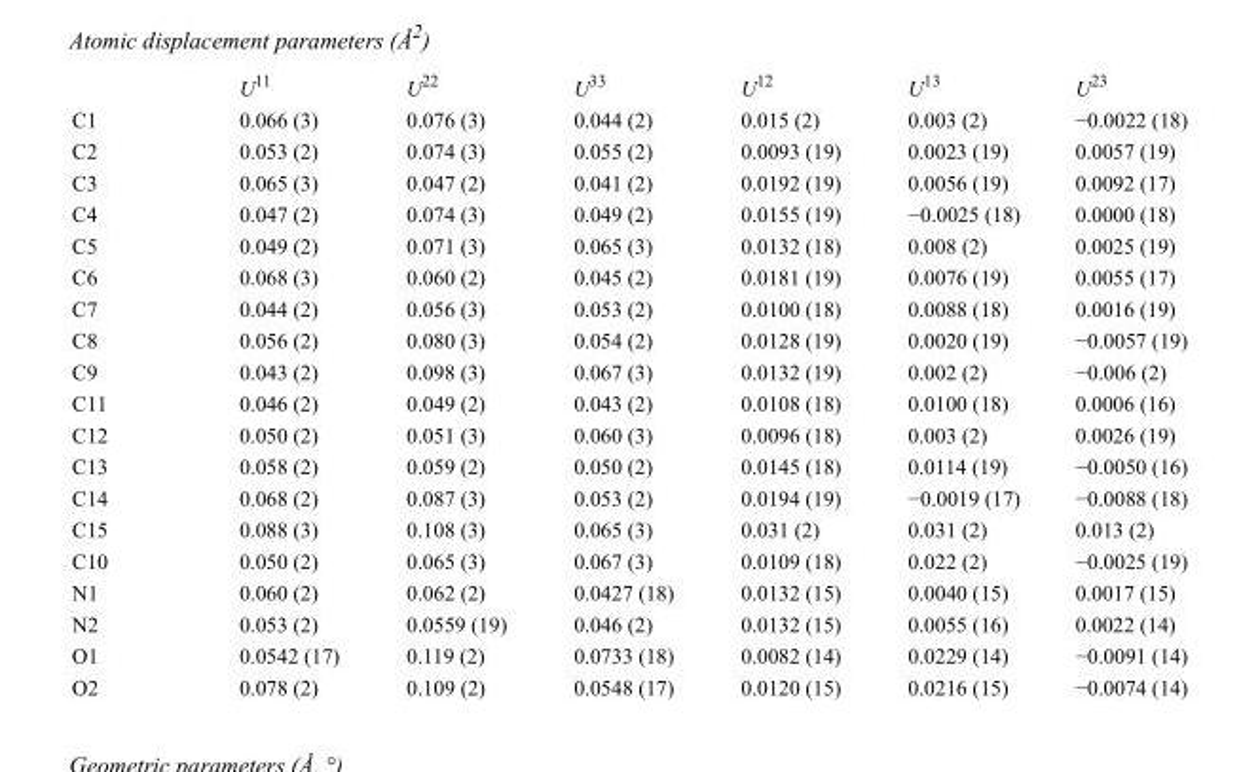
<table><thead><tr><td></td><td>U<sup>11</sup></td><td>U<sup>22</sup></td><td>U<sup>33</sup></td><td>U<sup>12</sup></td><td>U<sup>13</sup></td><td>U<sup>23</sup></td></tr></thead><tbody><tr><td>C1</td><td>0.066 (3)</td><td>0.076 (3)</td><td>0.044 (2)</td><td>0.015 (2)</td><td>0.003 (2)</td><td>−0.0022 (18)</td></tr><tr><td>C2</td><td>0.053 (2)</td><td>0.074 (3)</td><td>0.055 (2)</td><td>0.0093 (19)</td><td>0.0023 (19)</td><td>0.0057 (19)</td></tr><tr><td>C3</td><td>0.065 (3)</td><td>0.047 (2)</td><td>0.041 (2)</td><td>0.0192 (19)</td><td>0.0056 (19)</td><td>0.0092 (17)</td></tr><tr><td>C4</td><td>0.047 (2)</td><td>0.074 (3)</td><td>0.049 (2)</td><td>0.0155 (19)</td><td>−0.0025 (18)</td><td>0.0000 (18)</td></tr><tr><td>C5</td><td>0.049 (2)</td><td>0.071 (3)</td><td>0.065 (3)</td><td>0.0132 (18)</td><td>0.008 (2)</td><td>0.0025 (19)</td></tr><tr><td>C6</td><td>0.068 (3)</td><td>0.060 (2)</td><td>0.045 (2)</td><td>0.0181 (19)</td><td>0.0076 (19)</td><td>0.0055 (17)</td></tr><tr><td>C7</td><td>0.044 (2)</td><td>0.056 (3)</td><td>0.053 (2)</td><td>0.0100 (18)</td><td>0.0088 (18)</td><td>0.0016 (19)</td></tr><tr><td>C8</td><td>0.056 (2)</td><td>0.080 (3)</td><td>0.054 (2)</td><td>0.0128 (19)</td><td>0.0020 (19)</td><td>−0.0057 (19)</td></tr><tr><td>C9</td><td>0.043 (2)</td><td>0.098 (3)</td><td>0.067 (3)</td><td>0.0132 (19)</td><td>0.002 (2)</td><td>−0.006 (2)</td></tr><tr><td>C11</td><td>0.046 (2)</td><td>0.049 (2)</td><td>0.043 (2)</td><td>0.0108 (18)</td><td>0.0100 (18)</td><td>0.0006 (16)</td></tr><tr><td>C12</td><td>0.050 (2)</td><td>0.051 (3)</td><td>0.060 (3)</td><td>0.0096 (18)</td><td>0.003 (2)</td><td>0.0026 (19)</td></tr><tr><td>C13</td><td>0.058 (2)</td><td>0.059 (2)</td><td>0.050 (2)</td><td>0.0145 (18)</td><td>0.0114 (19)</td><td>−0.0050 (16)</td></tr><tr><td>C14</td><td>0.068 (2)</td><td>0.087 (3)</td><td>0.053 (2)</td><td>0.0194 (19)</td><td>−0.0019 (17)</td><td>−0.0088 (18)</td></tr><tr><td>C15</td><td>0.088 (3)</td><td>0.108 (3)</td><td>0.065 (3)</td><td>0.031 (2)</td><td>0.031 (2)</td><td>0.013 (2)</td></tr><tr><td>C10</td><td>0.050 (2)</td><td>0.065 (3)</td><td>0.067 (3)</td><td>0.0109 (18)</td><td>0.022 (2)</td><td>−0.0025 (19)</td></tr><tr><td>N1</td><td>0.060 (2)</td><td>0.062 (2)</td><td>0.0427 (18)</td><td>0.0132 (15)</td><td>0.0040 (15)</td><td>0.0017 (15)</td></tr><tr><td>N2</td><td>0.053 (2)</td><td>0.0559 (19)</td><td>0.046 (2)</td><td>0.0132 (15)</td><td>0.0055 (16)</td><td>0.0022 (14)</td></tr><tr><td>O1</td><td>0.0542 (17)</td><td>0.119 (2)</td><td>0.0733 (18)</td><td>0.0082 (14)</td><td>0.0229 (14)</td><td>−0.0091 (14)</td></tr><tr><td>O2</td><td>0.078 (2)</td><td>0.109 (2)</td><td>0.0548 (17)</td><td>0.0120 (15)</td><td>0.0216 (15)</td><td>−0.0074 (14)</td></tr></tbody></table>